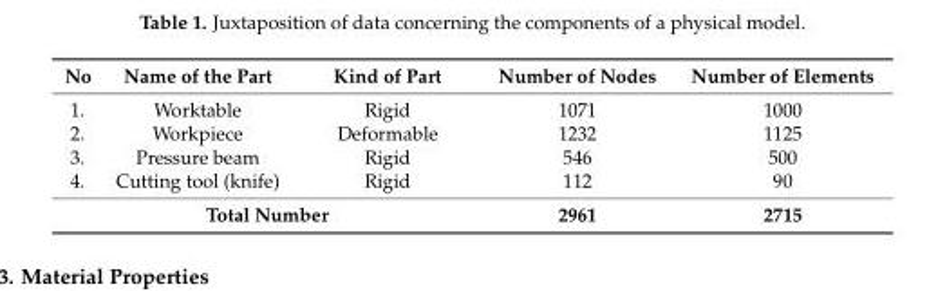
<table><thead><tr><td>No</td><td>Name of the Part</td><td>Kind of Part</td><td>Number of Nodes</td><td>Number of Elements</td></tr></thead><tbody><tr><td>1.</td><td>Worktable</td><td>Rigid</td><td>1071</td><td>1000</td></tr><tr><td>2.</td><td>Workpiece</td><td>Deformable</td><td>1232</td><td>1125</td></tr><tr><td>3.</td><td>Pressure beam</td><td>Rigid</td><td>546</td><td>500</td></tr><tr><td>4.</td><td>Cutting tool (knife)</td><td>Rigid</td><td>112</td><td>90</td></tr><tr><td colspan="3">Total Number</td><td>2961</td><td>2715</td></tr></tbody></table>